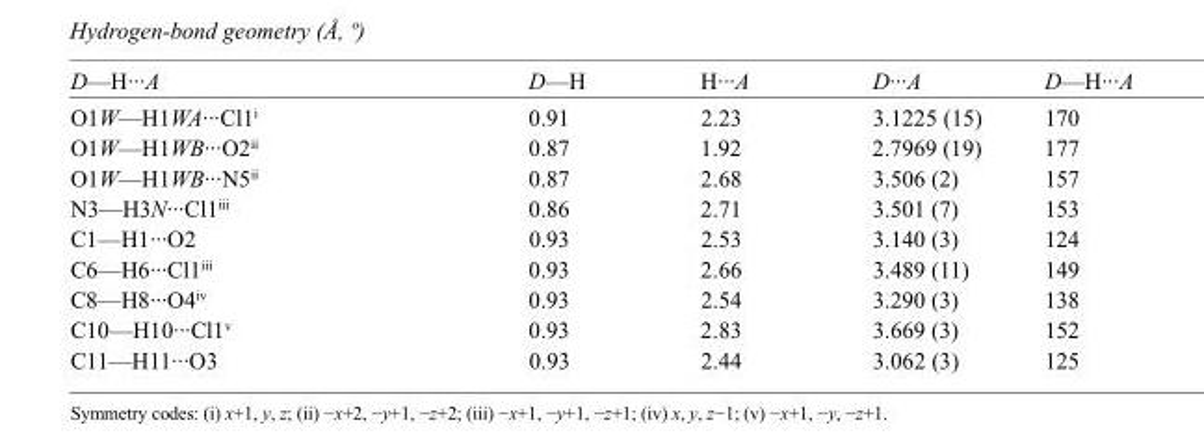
<table><tbody><tr><td>D—H···A</td><td>D—H</td><td>H···A</td><td>D···A</td><td>D—H···A</td></tr><tr><td>O1W—H1WA···Cl1<sup>i</sup></td><td>0.91</td><td>2.23</td><td>3.1225 (15)</td><td>170</td></tr><tr><td>O1W—H1WB···O2<sup>ii</sup></td><td>0.87</td><td>1.92</td><td>2.7969 (19)</td><td>177</td></tr><tr><td>O1W—H1WB···N5<sup>ii</sup></td><td>0.87</td><td>2.68</td><td>3.506 (2)</td><td>157</td></tr><tr><td>N3—H3N···Cl1<sup>iii</sup></td><td>0.86</td><td>2.71</td><td>3.501 (7)</td><td>153</td></tr><tr><td>C1—H1···O2</td><td>0.93</td><td>2.53</td><td>3.140 (3)</td><td>124</td></tr><tr><td>C6—H6···Cl1<sup>iii</sup></td><td>0.93</td><td>2.66</td><td>3.489 (11)</td><td>149</td></tr><tr><td>C8—H8···O4<sup>iv</sup></td><td>0.93</td><td>2.54</td><td>3.290 (3)</td><td>138</td></tr><tr><td>C10—H10···Cl1<sup>v</sup></td><td>0.93</td><td>2.83</td><td>3.669 (3)</td><td>152</td></tr><tr><td>C11—H11···O3</td><td>0.93</td><td>2.44</td><td>3.062 (3)</td><td>125</td></tr></tbody></table>